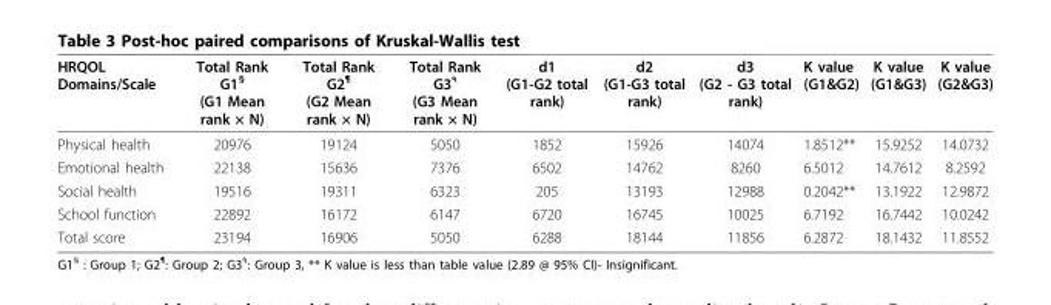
<table><thead><tr><td>HRQOL Domains/Scale</td><td>Total Rank G1<sup>§</sup> (G1 Mean rank × N)</td><td>Total Rank G2<sup>¶</sup> (G2 Mean rank × N)</td><td>Total Rank G3<sup>۹</sup> (G3 Mean rank × N)</td><td>d1 (G1-G2 total rank)</td><td>d2 (G1-G3 total rank)</td><td>d3 (G2 - G3 total rank)</td><td>K value (G1&amp;G2)</td><td>K value (G1&amp;G3)</td><td>K value (G2&amp;G3)</td></tr></thead><tbody><tr><td>Physical health</td><td>20976</td><td>19124</td><td>5050</td><td>1852</td><td>15926</td><td>14074</td><td>1.8512**</td><td>15.9252</td><td>14.0732</td></tr><tr><td>Emotional health</td><td>22138</td><td>15636</td><td>7376</td><td>6502</td><td>14762</td><td>8260</td><td>6.5012</td><td>14.7612</td><td>8.2592</td></tr><tr><td>Social health</td><td>19516</td><td>19311</td><td>6323</td><td>205</td><td>13193</td><td>12988</td><td>0.2042**</td><td>13.1922</td><td>12.9872</td></tr><tr><td>School function</td><td>22892</td><td>16172</td><td>6147</td><td>6720</td><td>16745</td><td>10025</td><td>6.7192</td><td>16.7442</td><td>10.0242</td></tr><tr><td>Total score</td><td>23194</td><td>16906</td><td>5050</td><td>6288</td><td>18144</td><td>11856</td><td>6.2872</td><td>18.1432</td><td>11.8552</td></tr></tbody></table>